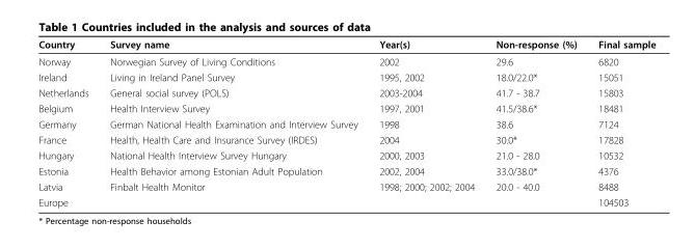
<table><thead><tr><td>Country</td><td>Survey name</td><td>Year(s)</td><td>Non-response (%)</td><td>Final sample</td></tr></thead><tbody><tr><td>Norway</td><td>Norwegian Survey of Living Conditions</td><td>2002</td><td>29.6</td><td>6820</td></tr><tr><td>Ireland</td><td>Living in Ireland Panel Survey</td><td>1995, 2002</td><td>18.0/22.0*</td><td>15051</td></tr><tr><td>Netherlands</td><td>General social survey (POLS)</td><td>2003-2004</td><td>41.7 - 38.7</td><td>15803</td></tr><tr><td>Belgium</td><td>Health Interview Survey</td><td>1997, 2001</td><td>41.5/38.6*</td><td>18481</td></tr><tr><td>Germany</td><td>German National Health Examination and Interview Survey</td><td>1998</td><td>38.6</td><td>7124</td></tr><tr><td>France</td><td>Health, Health Care and Insurance Survey (IRDES)</td><td>2004</td><td>30.0*</td><td>17828</td></tr><tr><td>Hungary</td><td>National Health Interview Survey Hungary</td><td>2000, 2003</td><td>21.0 - 28.0</td><td>10532</td></tr><tr><td>Estonia</td><td>Health Behavior among Estonian Adult Population</td><td>2002, 2004</td><td>33.0/38.0*</td><td>4376</td></tr><tr><td>Latvia</td><td>Finbalt Health Monitor</td><td>1998; 2000; 2002; 2004</td><td>20.0 - 40.0</td><td>8488</td></tr><tr><td>Europe</td><td></td><td></td><td></td><td>104503</td></tr></tbody></table>